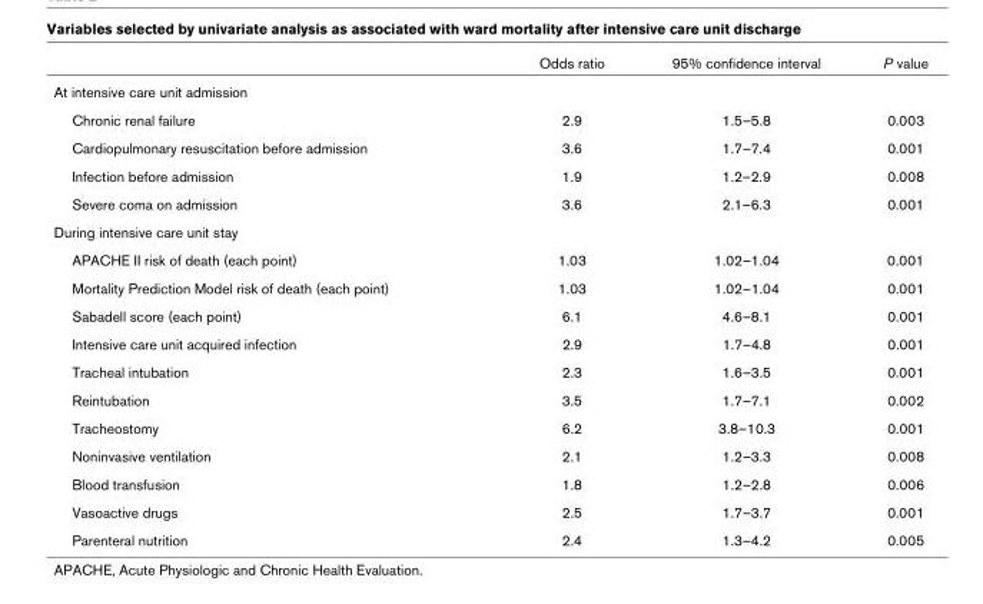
<table><thead><tr><td></td><td>Odds ratio</td><td>95% confidence interval</td><td>P value</td></tr></thead><tbody><tr><td colspan="4">At intensive care unit admission</td></tr><tr><td>Chronic renal failure</td><td>2.9</td><td>1.5–5.8</td><td>0.003</td></tr><tr><td>Cardiopulmonary resuscitation before admission</td><td>3.6</td><td>1.7–7.4</td><td>0.001</td></tr><tr><td>Infection before admission</td><td>1.9</td><td>1.2–2.9</td><td>0.008</td></tr><tr><td>Severe coma on admission</td><td>3.6</td><td>2.1–6.3</td><td>0.001</td></tr><tr><td colspan="4">During intensive care unit stay</td></tr><tr><td>APACHE II risk of death (each point)</td><td>1.03</td><td>1.02–1.04</td><td>0.001</td></tr><tr><td>Mortality Prediction Model risk of death (each point)</td><td>1.03</td><td>1.02–1.04</td><td>0.001</td></tr><tr><td>Sabadell score (each point)</td><td>6.1</td><td>4.6–8.1</td><td>0.001</td></tr><tr><td>Intensive care unit acquired infection</td><td>2.9</td><td>1.7–4.8</td><td>0.001</td></tr><tr><td>Tracheal intubation</td><td>2.3</td><td>1.6–3.5</td><td>0.001</td></tr><tr><td>Reintubation</td><td>3.5</td><td>1.7–7.1</td><td>0.002</td></tr><tr><td>Tracheostomy</td><td>6.2</td><td>3.8–10.3</td><td>0.001</td></tr><tr><td>Noninvasive ventilation</td><td>2.1</td><td>1.2–3.3</td><td>0.008</td></tr><tr><td>Blood transfusion</td><td>1.8</td><td>1.2–2.8</td><td>0.006</td></tr><tr><td>Vasoactive drugs</td><td>2.5</td><td>1.7–3.7</td><td>0.001</td></tr><tr><td>Parenteral nutrition</td><td>2.4</td><td>1.3–4.2</td><td>0.005</td></tr></tbody></table>